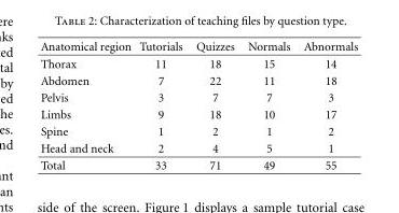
<table><thead><tr><td>Anatomical region</td><td>Tutorials</td><td>Quizzes</td><td>Normals</td><td>Abnormals</td></tr></thead><tbody><tr><td>Thorax</td><td>11</td><td>18</td><td>15</td><td>14</td></tr><tr><td>Abdomen</td><td>7</td><td>22</td><td>11</td><td>18</td></tr><tr><td>Pelvis</td><td>3</td><td>7</td><td>7</td><td>3</td></tr><tr><td>Limbs</td><td>9</td><td>18</td><td>10</td><td>17</td></tr><tr><td>Spine</td><td>1</td><td>2</td><td>1</td><td>2</td></tr><tr><td>Head and neck</td><td>2</td><td>4</td><td>5</td><td>1</td></tr><tr><td>Total</td><td>33</td><td>71</td><td>49</td><td>55</td></tr></tbody></table>